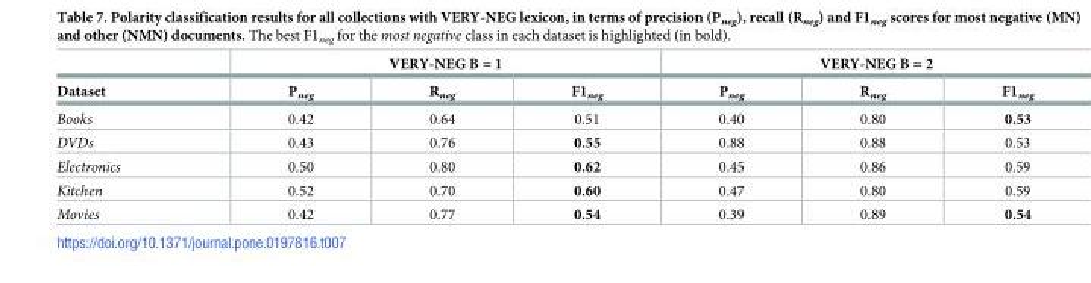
<table><thead><tr><td rowspan="2">Dataset</td><td colspan="3">VERY-NEG B = 1</td><td colspan="3">VERY-NEG B = 2</td></tr><tr><td>P<sub>neg</sub></td><td>R<sub>neg</sub></td><td>F1<sub>neg</sub></td><td>P<sub>neg</sub></td><td>R<sub>neg</sub></td><td>F1<sub>neg</sub></td></tr></thead><tbody><tr><td>Books</td><td>0.42</td><td>0.64</td><td>0.51</td><td>0.40</td><td>0.80</td><td>0.53</td></tr><tr><td>DVDs</td><td>0.43</td><td>0.76</td><td>0.55</td><td>0.88</td><td>0.88</td><td>0.53</td></tr><tr><td>Electronics</td><td>0.50</td><td>0.80</td><td>0.62</td><td>0.45</td><td>0.86</td><td>0.59</td></tr><tr><td>Kitchen</td><td>0.52</td><td>0.70</td><td>0.60</td><td>0.47</td><td>0.80</td><td>0.59</td></tr><tr><td>Movies</td><td>0.42</td><td>0.77</td><td>0.54</td><td>0.39</td><td>0.89</td><td>0.54</td></tr></tbody></table>